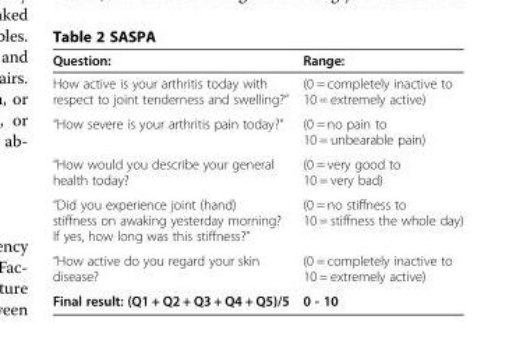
<table><thead><tr><td>Question:</td><td>Range:</td></tr></thead><tbody><tr><td>How active is your arthritis today with respect to joint tenderness and swelling?”</td><td>(0 = completely inactive to 10 = extremely active)</td></tr><tr><td>“How severe is your arthritis pain today?”</td><td>(0 = no pain to 10 = unbearable pain)</td></tr><tr><td>“How would you describe your general health today?</td><td>(0 = very good to 10 = very bad)</td></tr><tr><td>“Did you experience joint (hand) stiffness on awaking yesterday morning? If yes, how long was this stiffness?”</td><td>(0 = no stiffness to 10 = stiffness the whole day)</td></tr><tr><td>“How active do you regard your skin disease?</td><td>(0 = completely inactive to 10 = extremely active)</td></tr><tr><td>Final result: (Q1 + Q2 + Q3 + Q4 + Q5)/5</td><td>0 - 10</td></tr></tbody></table>